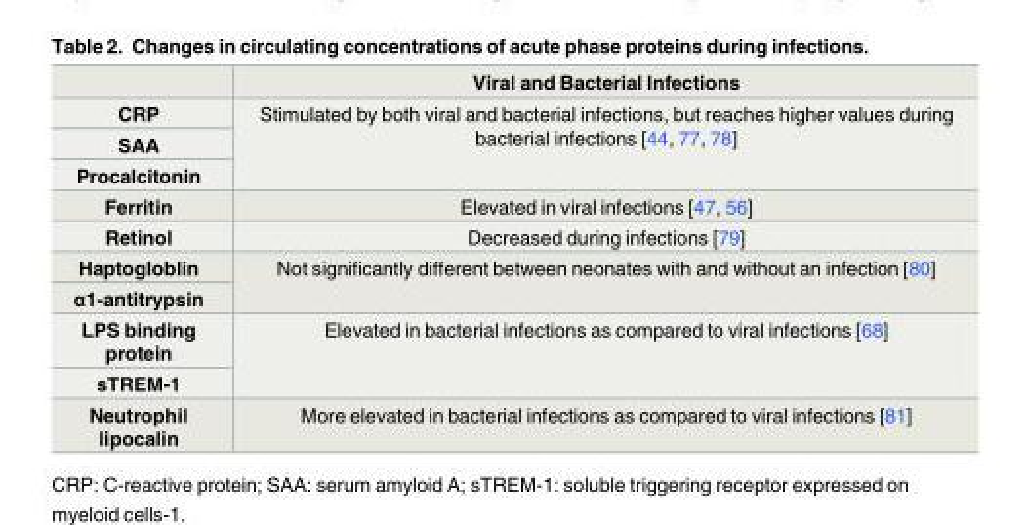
<table><thead><tr><td></td><td>Viral and Bacterial Infections</td></tr></thead><tbody><tr><td>CRP</td><td rowspan="3">Stimulated by both viral and bacterial infections, but reaches higher values during bacterial infections [44, 77, 78]</td></tr><tr><td>SAA</td></tr><tr><td>Procalcitonin</td></tr><tr><td>Ferritin</td><td>Elevated in viral infections [47, 56]</td></tr><tr><td>Retinol</td><td>Decreased during infections [79]</td></tr><tr><td>Haptogloblin</td><td rowspan="2">Not significantly different between neonates with and without an infection [80]</td></tr><tr><td>α1-antitrypsin</td></tr><tr><td>LPS binding protein</td><td rowspan="2">Elevated in bacterial infections as compared to viral infections [68]</td></tr><tr><td>sTREM-1</td></tr><tr><td>Neutrophil lipocalin</td><td>More elevated in bacterial infections as compared to viral infections [81]</td></tr></tbody></table>